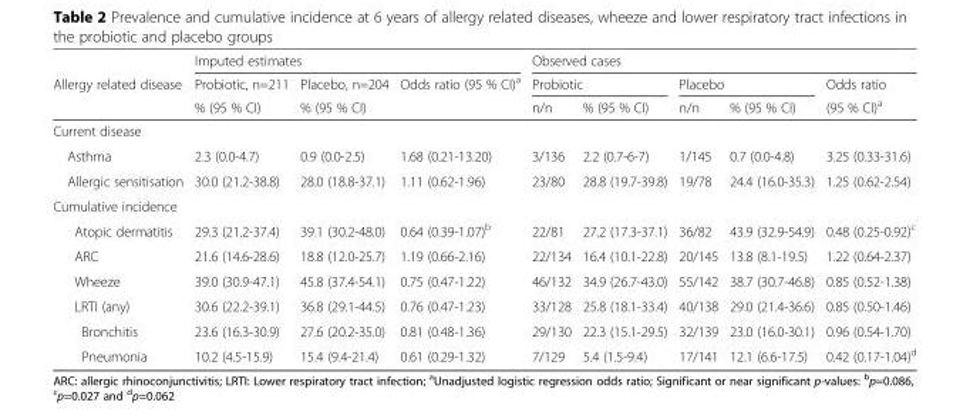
<table><thead><tr><td rowspan="3">Allergy related disease</td><td colspan="3">Imputed estimates</td><td colspan="5">Observed cases</td></tr><tr><td rowspan="2">Probiotic, n=211 % (95 % CI)</td><td rowspan="2">Placebo, n=204 % (95 % CI)</td><td rowspan="2">Odds ratio (95 % CI)<sup>a</sup></td><td colspan="2">Probiotic</td><td colspan="2">Placebo</td><td rowspan="2">Odds ratio (95 % CI)a</td></tr><tr><td>n/n</td><td>% (95 % CI)</td><td>n/n</td><td>% (95 % CI)</td></tr></thead><tbody><tr><td colspan="9">Current disease</td></tr><tr><td>Asthma</td><td>2.3 (0.0-4.7)</td><td>0.9 (0.0-2.5)</td><td>1.68 (0.21-13.20)</td><td>3/136</td><td>2.2 (0.7-6-7)</td><td>1/145</td><td>0.7 (0.0-4.8)</td><td>3.25 (0.33-31.6)</td></tr><tr><td>Allergic sensitisation</td><td>30.0 (21.2-38.8)</td><td>28.0 (18.8-37.1)</td><td>1.11 (0.62-1.96)</td><td>23/80</td><td>28.8 (19.7-39.8)</td><td>19/78</td><td>24.4 (16.0-35.3)</td><td>1.25 (0.62-2.54)</td></tr><tr><td colspan="9">Cumulative incidence</td></tr><tr><td>Atopic dermatitis</td><td>29.3 (21.2-37.4)</td><td>39.1 (30.2-48.0)</td><td>0.64 (0.39-1.07)<sup>b</sup></td><td>22/81</td><td>27.2 (17.3-37.1)</td><td>36/82</td><td>43.9 (32.9-54.9)</td><td>0.48 (0.25-0.92)<sup>c</sup></td></tr><tr><td>ARC</td><td>21.6 (14.6-28.6)</td><td>18.8 (12.0-25.7)</td><td>1.19 (0.66-2.16)</td><td>22/134</td><td>16.4 (10.1-22.8)</td><td>20/145</td><td>13.8 (8.1-19.5)</td><td>1.22 (0.64-2.37)</td></tr><tr><td>Wheeze</td><td>39.0 (30.9-47.1)</td><td>45.8 (37.4-54.1)</td><td>0.75 (0.47-1.22)</td><td>46/132</td><td>34.9 (26.7-43.0)</td><td>55/142</td><td>38.7 (30.7-46.8)</td><td>0.85 (0.52-1.38)</td></tr><tr><td>LRTI (any)</td><td>30.6 (22.2-39.1)</td><td>36.8 (29.1-44.5)</td><td>0.76 (0.47-1.23)</td><td>33/128</td><td>25.8 (18.1-33.4)</td><td>40/138</td><td>29.0 (21.4-36.6)</td><td>0.85 (0.50-1.46)</td></tr><tr><td>Bronchitis</td><td>23.6 (16.3-30.9)</td><td>27.6 (20.2-35.0)</td><td>0.81 (0.48-1.36)</td><td>29/130</td><td>22.3 (15.1-29.5)</td><td>32/139</td><td>23.0 (16.0-30.1)</td><td>0.96 (0.54-1.70)</td></tr><tr><td>Pneumonia</td><td>10.2 (4.5-15.9)</td><td>15.4 (9.4-21.4)</td><td>0.61 (0.29-1.32)</td><td>7/129</td><td>5.4 (1.5-9.4)</td><td>17/141</td><td>12.1 (6.6-17.5)</td><td>0.42 (0.17-1.04)<sup>d</sup></td></tr></tbody></table>